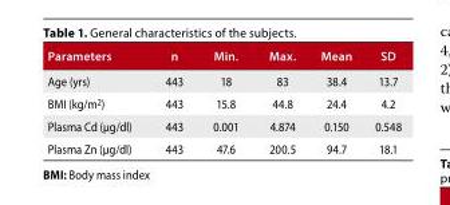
<table><thead><tr><td>Parameters</td><td>n</td><td>Min.</td><td>Max.</td><td>Mean</td><td>SD</td></tr></thead><tbody><tr><td>Age (yrs)</td><td>443</td><td>18</td><td>83</td><td>38.4</td><td>13.7</td></tr><tr><td>BMI (kg/m<sup>2</sup>)</td><td>443</td><td>15.8</td><td>44.8</td><td>24.4</td><td>4.2</td></tr><tr><td>Plasma Cd (µg/dl)</td><td>443</td><td>0.001</td><td>4.874</td><td>0.150</td><td>0.548</td></tr><tr><td>Plasma Zn (µg/dl)</td><td>443</td><td>47.6</td><td>200.5</td><td>94.7</td><td>18.1</td></tr></tbody></table>